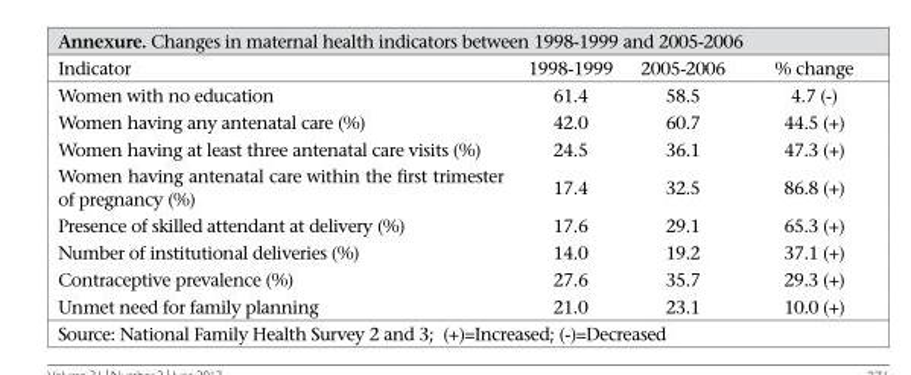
<table><thead><tr><td>Indicator</td><td>1998-1999</td><td>2005-2006</td><td>% change</td></tr></thead><tbody><tr><td>Women with no education</td><td>61.4</td><td>58.5</td><td>4.7 (-)</td></tr><tr><td>Women having any antenatal care (%)</td><td>42.0</td><td>60.7</td><td>44.5 (+)</td></tr><tr><td>Women having at least three antenatal care visits (%)</td><td>24.5</td><td>36.1</td><td>47.3 (+)</td></tr><tr><td>Women having antenatal care within the first trimester of pregnancy (%)</td><td>17.4</td><td>32.5</td><td>86.8 (+)</td></tr><tr><td>Presence of skilled attendant at delivery (%)</td><td>17.6</td><td>29.1</td><td>65.3 (+)</td></tr><tr><td>Number of institutional deliveries (%)</td><td>14.0</td><td>19.2</td><td>37.1 (+)</td></tr><tr><td>Contraceptive prevalence (%)</td><td>27.6</td><td>35.7</td><td>29.3 (+)</td></tr><tr><td>Unmet need for family planning</td><td>21.0</td><td>23.1</td><td>10.0 (+)</td></tr></tbody></table>